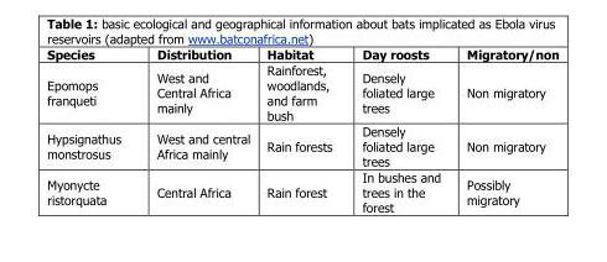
<table><thead><tr><td>Species</td><td>Distribution</td><td>Habitat</td><td>Day roosts</td><td>Migratory/non</td></tr></thead><tbody><tr><td>Epomops franqueti</td><td>West and Central Africa mainly</td><td>Rainforest, woodlands, and farm bush</td><td>Densely foliated large trees</td><td>Non migratory</td></tr><tr><td>Hypsignathus monstrosus</td><td>West and central Africa mainly</td><td>Rain forests</td><td>Densely foliated large trees</td><td>Non migratory</td></tr><tr><td>Myonycte ristorquata</td><td>Central Africa</td><td>Rain forest</td><td>In bushes and trees in the forest</td><td>Possibly migratory</td></tr></tbody></table>